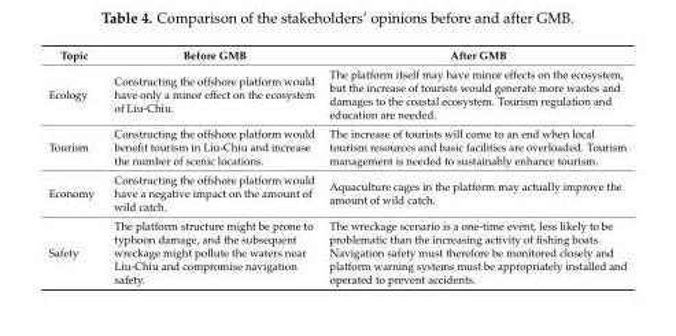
<table><thead><tr><td>Topic</td><td>Before GMB</td><td>After GMB</td></tr></thead><tbody><tr><td>Ecology</td><td>Constructing the offshore platform would have only a minor effect on the ecosystem of Liu-Chiu.</td><td>The platform itself may have minor effects on the ecosystem, but the increase of tourists would generate more wastes and damages to the coastal ecosystem. Tourism regulation and education are needed.</td></tr><tr><td>Tourism</td><td>Constructing the offshore platform would benefit tourism in Liu-Chiu and increase the number of scenic locations.</td><td>The increase of tourists will come to an end when local tourism resources and basic facilities are overloaded. Tourism management is needed to sustainably enhance tourism.</td></tr><tr><td>Economy</td><td>Constructing the offshore platform would have a negative impact on the amount of wild catch.</td><td>Aquaculture cages in the platform may actually improve the amount of wild catch.</td></tr><tr><td>Safety</td><td>The platform structure might be prone to typhoon damage, and the subsequent wreckage might pollute the waters near Liu-Chiu and compromise navigation safety.</td><td>The wreckage scenario is a one-time event, less likely to be problematic than the increasing activity of fishing boats. Navigation safety must therefore be monitored closely and platform warning systems must be appropriately installed and operated to prevent accidents.</td></tr></tbody></table>